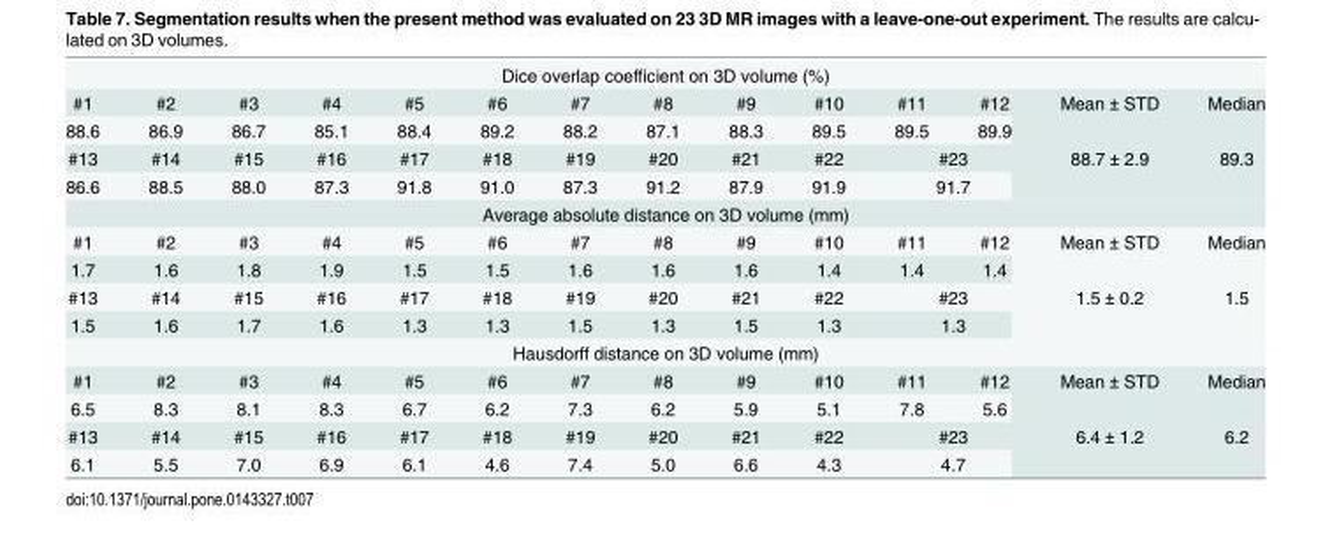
<table><tbody><tr><td colspan="14">Dice overlap coefficient on 3D volume (%)</td></tr><tr><td>#1</td><td>#2</td><td>#3</td><td>#4</td><td>#5</td><td>#6</td><td>#7</td><td>#8</td><td>#9</td><td>#10</td><td>#11</td><td>#12</td><td rowspan="2">Mean ± STD</td><td rowspan="2">Median</td></tr><tr><td>88.6</td><td>86.9</td><td>86.7</td><td>85.1</td><td>88.4</td><td>89.2</td><td>88.2</td><td>87.1</td><td>88.3</td><td>89.5</td><td>89.5</td><td>89.9</td></tr><tr><td>#13</td><td>#14</td><td>#15</td><td>#16</td><td>#17</td><td>#18</td><td>#19</td><td>#20</td><td>#21</td><td>#22</td><td colspan="2">#23</td><td rowspan="2">88.7 ± 2.9</td><td rowspan="2">89.3</td></tr><tr><td>86.6</td><td>88.5</td><td>88.0</td><td>87.3</td><td>91.8</td><td>91.0</td><td>87.3</td><td>91.2</td><td>87.9</td><td>91.9</td><td colspan="2">91.7</td></tr><tr><td colspan="14">Average absolute distance on 3D volume (mm)</td></tr><tr><td>#1</td><td>#2</td><td>#3</td><td>#4</td><td>#5</td><td>#6</td><td>#7</td><td>#8</td><td>#9</td><td>#10</td><td>#11</td><td>#12</td><td rowspan="2">Mean ± STD</td><td rowspan="2">Median</td></tr><tr><td>1.7</td><td>1.6</td><td>1.8</td><td>1.9</td><td>1.5</td><td>1.5</td><td>1.6</td><td>1.6</td><td>1.6</td><td>1.4</td><td>1.4</td><td>1.4</td></tr><tr><td>#13</td><td>#14</td><td>#15</td><td>#16</td><td>#17</td><td>#18</td><td>#19</td><td>#20</td><td>#21</td><td>#22</td><td colspan="2">#23</td><td rowspan="2">1.5 ± 0.2</td><td rowspan="2">1.5</td></tr><tr><td>1.5</td><td>1.6</td><td>1.7</td><td>1.6</td><td>1.3</td><td>1.3</td><td>1.5</td><td>1.3</td><td>1.5</td><td>1.3</td><td colspan="2">1.3</td></tr><tr><td colspan="14">Hausdorff distance on 3D volume (mm)</td></tr><tr><td>#1</td><td>#2</td><td>#3</td><td>#4</td><td>#5</td><td>#6</td><td>#7</td><td>#8</td><td>#9</td><td>#10</td><td>#11</td><td>#12</td><td rowspan="2">Mean ± STD</td><td rowspan="2">Median</td></tr><tr><td>6.5</td><td>8.3</td><td>8.1</td><td>8.3</td><td>6.7</td><td>6.2</td><td>7.3</td><td>6.2</td><td>5.9</td><td>5.1</td><td>7.8</td><td>5.6</td></tr><tr><td>#13</td><td>#14</td><td>#15</td><td>#16</td><td>#17</td><td>#18</td><td>#19</td><td>#20</td><td>#21</td><td>#22</td><td colspan="2">#23</td><td rowspan="2">6.4 ± 1.2</td><td rowspan="2">6.2</td></tr><tr><td>6.1</td><td>5.5</td><td>7.0</td><td>6.9</td><td>6.1</td><td>4.6</td><td>7.4</td><td>5.0</td><td>6.6</td><td>4.3</td><td colspan="2">4.7</td></tr></tbody></table>